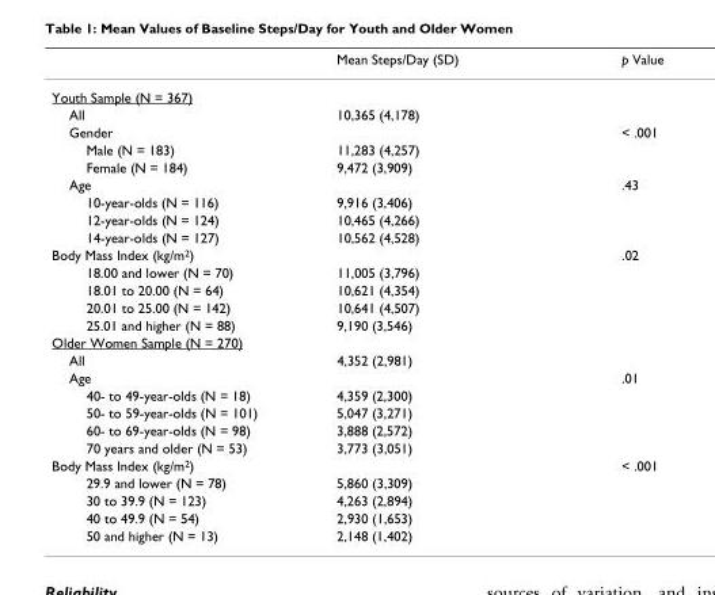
<table><thead><tr><td></td><td>Mean Steps/Day (SD)</td><td>p Value</td></tr></thead><tbody><tr><td colspan="3">Youth Sample (N = 367)</td></tr><tr><td>All</td><td>10,365 (4,178)</td><td></td></tr><tr><td>Gender</td><td></td><td>&lt; .001</td></tr><tr><td>Male (N = 183)</td><td>11,283 (4,257)</td><td></td></tr><tr><td>Female (N = 184)</td><td>9,472 (3,909)</td><td></td></tr><tr><td>Age</td><td></td><td>.43</td></tr><tr><td>10-year-olds (N = 116)</td><td>9,916 (3,406)</td><td></td></tr><tr><td>12-year-olds (N = 124)</td><td>10,465 (4,266)</td><td></td></tr><tr><td>14-year-olds (N = 127)</td><td>10,562 (4,528)</td><td></td></tr><tr><td>Body Mass Index (kg/m<sup>2</sup>)</td><td></td><td>.02</td></tr><tr><td>18.00 and lower (N = 70)</td><td>11,005 (3,796)</td><td></td></tr><tr><td>18.01 to 20.00 (N = 64)</td><td>10,621 (4,354)</td><td></td></tr><tr><td>20.01 to 25.00 (N = 142)</td><td>10,641 (4,507)</td><td></td></tr><tr><td>25.01 and higher (N = 88)</td><td>9,190 (3,546)</td><td></td></tr><tr><td colspan="3">Older Women Sample (N = 270)</td></tr><tr><td>All</td><td>4,352 (2,981)</td><td></td></tr><tr><td>Age</td><td></td><td>.01</td></tr><tr><td>40- to 49-year-olds (N = 18)</td><td>4,359 (2,300)</td><td></td></tr><tr><td>50- to 59-year-olds (N = 101)</td><td>5,047 (3,271)</td><td></td></tr><tr><td>60- to 69-year-olds (N = 98)</td><td>3,888 (2,572)</td><td></td></tr><tr><td>70 years and older (N = 53)</td><td>3,773 (3,051)</td><td></td></tr><tr><td>Body Mass Index (kg/m<sup>2</sup>)</td><td></td><td>&lt; .001</td></tr><tr><td>29.9 and lower (N = 78)</td><td>5,860 (3,309)</td><td></td></tr><tr><td>30 to 39.9 (N = 123)</td><td>4,263 (2,894)</td><td></td></tr><tr><td>40 to 49.9 (N = 54)</td><td>2,930 (1,653)</td><td></td></tr><tr><td>50 and higher (N = 13)</td><td>2,148 (1,402)</td><td></td></tr></tbody></table>